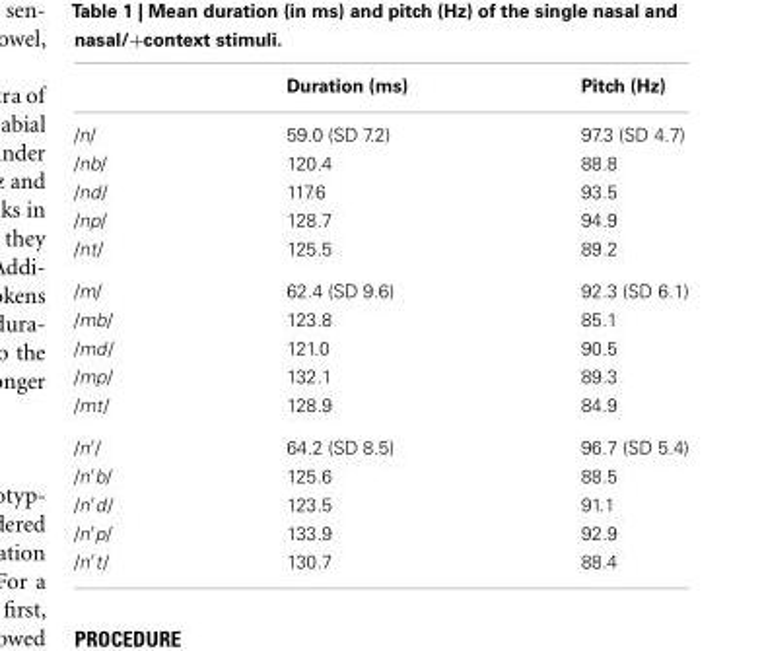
<table><thead><tr><td></td><td>Duration (ms)</td><td>Pitch (Hz)</td></tr></thead><tbody><tr><td>/n/</td><td>59.0 (SD 7.2)</td><td>97.3 (SD 4.7)</td></tr><tr><td>/nb/</td><td>120.4</td><td>88.8</td></tr><tr><td>/nd/</td><td>117.6</td><td>93.5</td></tr><tr><td>/np/</td><td>128.7</td><td>94.9</td></tr><tr><td>/nt/</td><td>125.5</td><td>89.2</td></tr><tr><td>/m/</td><td>62.4 (SD 9.6)</td><td>92.3 (SD 6.1)</td></tr><tr><td>/mb/</td><td>123.8</td><td>85.1</td></tr><tr><td>/md/</td><td>121.0</td><td>90.5</td></tr><tr><td>/mp/</td><td>132.1</td><td>89.3</td></tr><tr><td>/mt/</td><td>128.9</td><td>84.9</td></tr><tr><td>/n′/</td><td>64.2 (SD 8.5)</td><td>96.7 (SD 5.4)</td></tr><tr><td>/n′b/</td><td>125.6</td><td>88.5</td></tr><tr><td>/n′d/</td><td>123.5</td><td>91.1</td></tr><tr><td>/n′p/</td><td>133.9</td><td>92.9</td></tr><tr><td>/n′t/</td><td>130.7</td><td>88.4</td></tr></tbody></table>